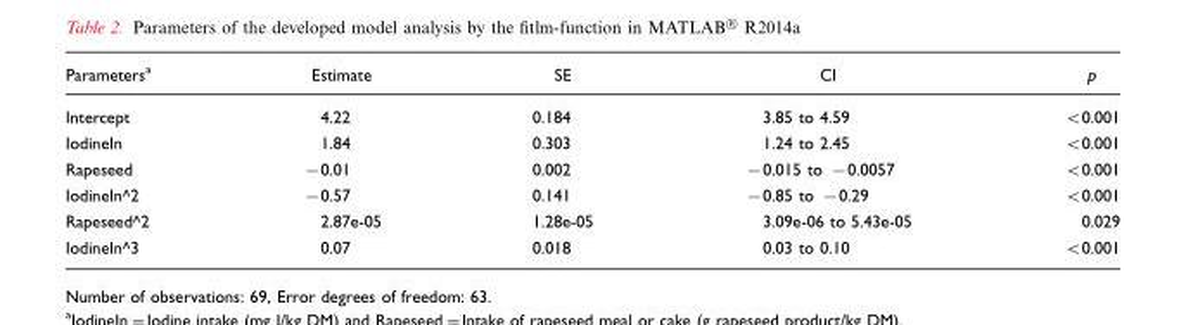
<table><thead><tr><td>Parameters<sup>a</sup></td><td>Estimate</td><td>SE</td><td>CI</td><td>p</td></tr></thead><tbody><tr><td>Intercept</td><td>4.22</td><td>0.184</td><td>3.85 to 4.59</td><td>&lt;0.001</td></tr><tr><td>IodineIn</td><td>1.84</td><td>0.303</td><td>1.24 to 2.45</td><td>&lt;0.001</td></tr><tr><td>Rapeseed</td><td>−0.01</td><td>0.002</td><td>−0.015 to −0.0057</td><td>&lt;0.001</td></tr><tr><td>IodineIn^2</td><td>−0.57</td><td>0.141</td><td>−0.85 to −0.29</td><td>&lt;0.001</td></tr><tr><td>Rapeseed^2</td><td>2.87e-05</td><td>1.28e-05</td><td>3.09e-06 to 5.43e-05</td><td>0.029</td></tr><tr><td>IodineIn^3</td><td>0.07</td><td>0.018</td><td>0.03 to 0.10</td><td>&lt;0.001</td></tr></tbody></table>